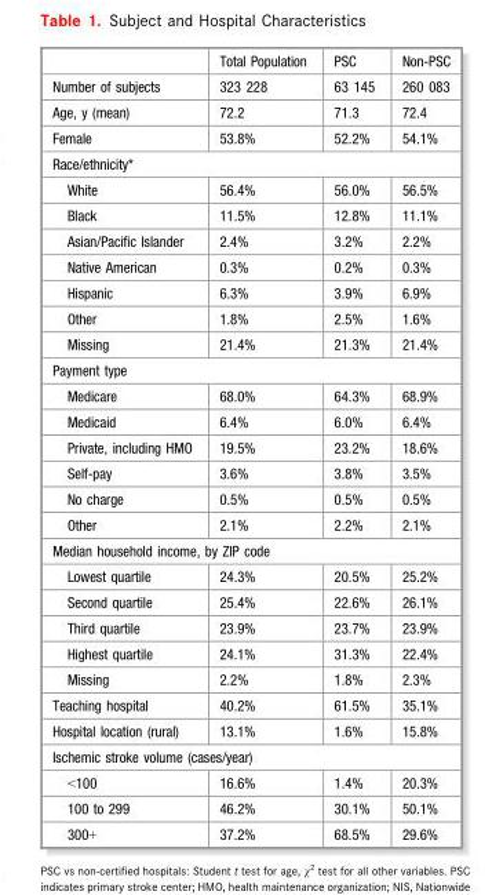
<table><thead><tr><td></td><td>Total Population</td><td>PSC</td><td>Non-PSC</td></tr></thead><tbody><tr><td>Number of subjects</td><td>323 228</td><td>63 145</td><td>260 083</td></tr><tr><td>Age, y (mean)</td><td>72.2</td><td>71.3</td><td>72.4</td></tr><tr><td>Female</td><td>53.8%</td><td>52.2%</td><td>54.1%</td></tr><tr><td colspan="4">Race/ethnicity*</td></tr><tr><td>White</td><td>56.4%</td><td>56.0%</td><td>56.5%</td></tr><tr><td>Black</td><td>11.5%</td><td>12.8%</td><td>11.1%</td></tr><tr><td>Asian/Pacific Islander</td><td>2.4%</td><td>3.2%</td><td>2.2%</td></tr><tr><td>Native American</td><td>0.3%</td><td>0.2%</td><td>0.3%</td></tr><tr><td>Hispanic</td><td>6.3%</td><td>3.9%</td><td>6.9%</td></tr><tr><td>Other</td><td>1.8%</td><td>2.5%</td><td>1.6%</td></tr><tr><td>Missing</td><td>21.4%</td><td>21.3%</td><td>21.4%</td></tr><tr><td colspan="4">Payment type</td></tr><tr><td>Medicare</td><td>68.0%</td><td>64.3%</td><td>68.9%</td></tr><tr><td>Medicaid</td><td>6.4%</td><td>6.0%</td><td>6.4%</td></tr><tr><td>Private, including HMO</td><td>19.5%</td><td>23.2%</td><td>18.6%</td></tr><tr><td>Self-pay</td><td>3.6%</td><td>3.8%</td><td>3.5%</td></tr><tr><td>No charge</td><td>0.5%</td><td>0.5%</td><td>0.5%</td></tr><tr><td>Other</td><td>2.1%</td><td>2.2%</td><td>2.1%</td></tr><tr><td colspan="4">Median household income, by ZIP code</td></tr><tr><td>Lowest quartile</td><td>24.3%</td><td>20.5%</td><td>25.2%</td></tr><tr><td>Second quartile</td><td>25.4%</td><td>22.6%</td><td>26.1%</td></tr><tr><td>Third quartile</td><td>23.9%</td><td>23.7%</td><td>23.9%</td></tr><tr><td>Highest quartile</td><td>24.1%</td><td>31.3%</td><td>22.4%</td></tr><tr><td>Missing</td><td>2.2%</td><td>1.8%</td><td>2.3%</td></tr><tr><td>Teaching hospital</td><td>40.2%</td><td>61.5%</td><td>35.1%</td></tr><tr><td>Hospital location (rural)</td><td>13.1%</td><td>1.6%</td><td>15.8%</td></tr><tr><td colspan="4">Ischemic stroke volume (cases/year)</td></tr><tr><td>&lt;100</td><td>16.6%</td><td>1.4%</td><td>20.3%</td></tr><tr><td>100 to 299</td><td>46.2%</td><td>30.1%</td><td>50.1%</td></tr><tr><td>300+</td><td>37.2%</td><td>68.5%</td><td>29.6%</td></tr></tbody></table>